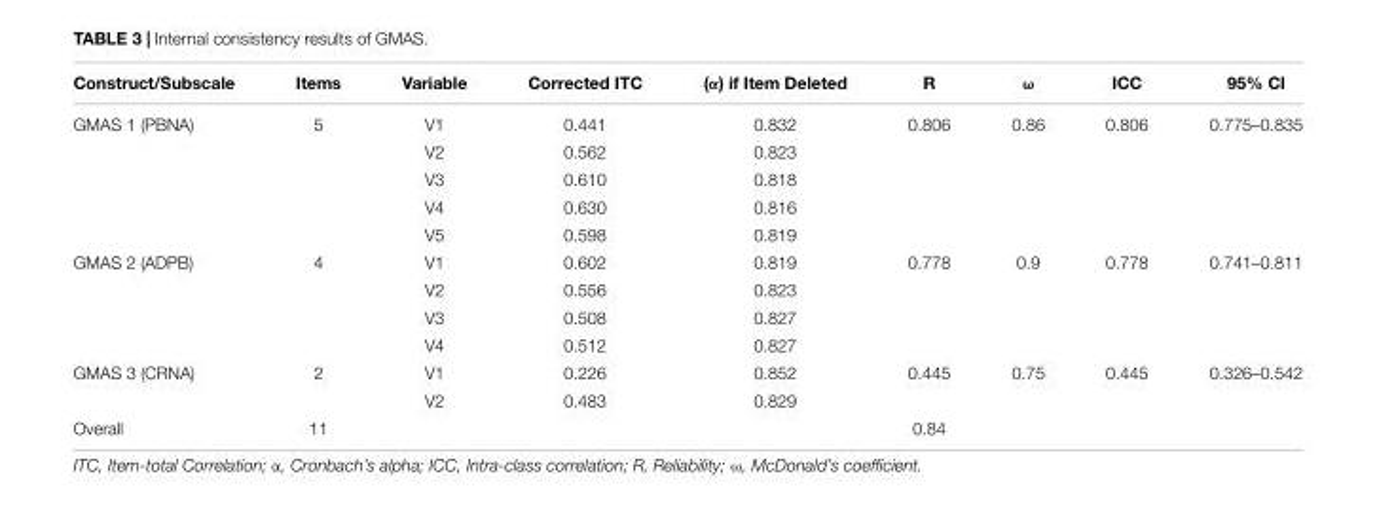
<table><thead><tr><td>Construct/Subscale</td><td>Items</td><td>Variable</td><td>Corrected ITC</td><td>(α) if Item Deleted</td><td>R</td><td>ω</td><td>ICC</td><td>95% CI</td></tr></thead><tbody><tr><td rowspan="5">GMAS 1 (PBNA)</td><td>5</td><td>V1</td><td>0.441</td><td>0.832</td><td>0.806</td><td>0.86</td><td>0.806</td><td>0.775–0.835</td></tr><tr><td></td><td>V2</td><td>0.562</td><td>0.823</td><td></td><td></td><td></td><td></td></tr><tr><td></td><td>V3</td><td>0.610</td><td>0.818</td><td></td><td></td><td></td><td></td></tr><tr><td></td><td>V4</td><td>0.630</td><td>0.816</td><td></td><td></td><td></td><td></td></tr><tr><td></td><td>V5</td><td>0.598</td><td>0.819</td><td></td><td></td><td></td><td></td></tr><tr><td rowspan="4">GMAS 2 (ADPB)</td><td>4</td><td>V1</td><td>0.602</td><td>0.819</td><td>0.778</td><td>0.9</td><td>0.778</td><td>0.741–0.811</td></tr><tr><td></td><td>V2</td><td>0.556</td><td>0.823</td><td></td><td></td><td></td><td></td></tr><tr><td></td><td>V3</td><td>0.508</td><td>0.827</td><td></td><td></td><td></td><td></td></tr><tr><td></td><td>V4</td><td>0.512</td><td>0.827</td><td></td><td></td><td></td><td></td></tr><tr><td rowspan="2">GMAS 3 (CRNA)</td><td>2</td><td>V1</td><td>0.226</td><td>0.852</td><td>0.445</td><td>0.75</td><td>0.445</td><td>0.326–0.542</td></tr><tr><td></td><td>V2</td><td>0.483</td><td>0.829</td><td></td><td></td><td></td><td></td></tr><tr><td>Overall</td><td>11</td><td></td><td></td><td></td><td>0.84</td><td></td><td></td><td></td></tr></tbody></table>